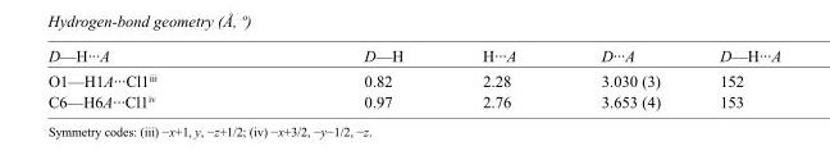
<table><tbody><tr><td>D—H···A</td><td>D—H</td><td>H···A</td><td>D···A</td><td>D—H···A</td></tr><tr><td>O1—H1A···Cl1<sup>iii</sup></td><td>0.82</td><td>2.28</td><td>3.030 (3)</td><td>152</td></tr><tr><td>C6—H6A···Cl1<sup>iv</sup></td><td>0.97</td><td>2.76</td><td>3.653 (4)</td><td>153</td></tr></tbody></table>